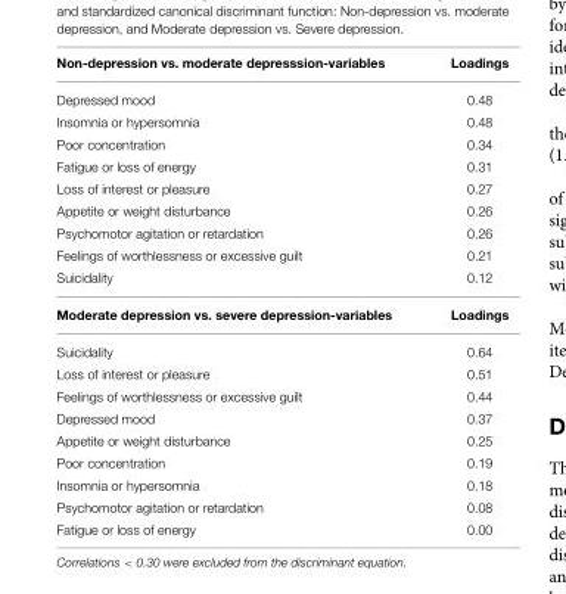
<table><thead><tr><td>Non-depression vs. moderate depresssion-variables</td><td>Loadings</td></tr></thead><tbody><tr><td>Depressed mood</td><td>0.48</td></tr><tr><td>Insomnia or hypersomnia</td><td>0.48</td></tr><tr><td>Poor concentration</td><td>0.34</td></tr><tr><td>Fatigue or loss of energy</td><td>0.31</td></tr><tr><td>Loss of interest or pleasure</td><td>0.27</td></tr><tr><td>Appetite or weight disturbance</td><td>0.26</td></tr><tr><td>Psychomotor agitation or retardation</td><td>0.26</td></tr><tr><td>Feelings of worthlessness or excessive guilt</td><td>0.21</td></tr><tr><td>Suicidality</td><td>0.12</td></tr><tr><td>Moderate depression vs. severe depression-variables</td><td>Loadings</td></tr><tr><td>Suicidality</td><td>0.64</td></tr><tr><td>Loss of interest or pleasure</td><td>0.51</td></tr><tr><td>Feelings of worthlessness or excessive guilt</td><td>0.44</td></tr><tr><td>Depressed mood</td><td>0.37</td></tr><tr><td>Appetite or weight disturbance</td><td>0.25</td></tr><tr><td>Poor concentration</td><td>0.19</td></tr><tr><td>Insomnia or hypersomnia</td><td>0.18</td></tr><tr><td>Psychomotor agitation or retardation</td><td>0.08</td></tr><tr><td>Fatigue or loss of energy</td><td>0.00</td></tr></tbody></table>